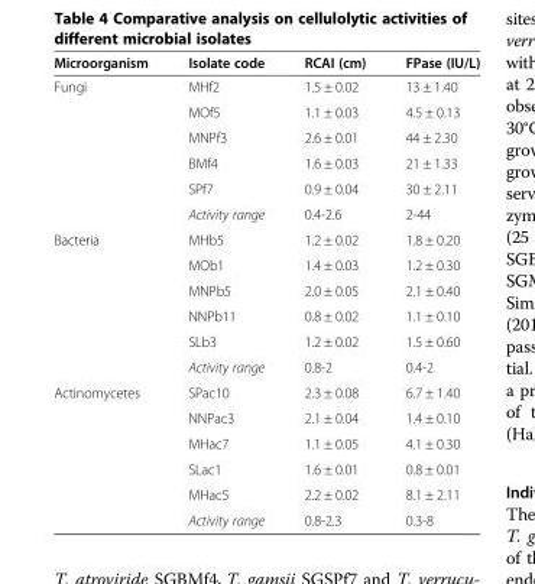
<table><thead><tr><td>Microorganism</td><td>Isolate code</td><td>RCAI (cm)</td><td>FPase (IU/L)</td></tr></thead><tbody><tr><td rowspan="6">Fungi</td><td>MHf2</td><td>1.5 ± 0.02</td><td>13 ± 1.40</td></tr><tr><td>MOf5</td><td>1.1 ± 0.03</td><td>4.5 ± 0.13</td></tr><tr><td>MNPf3</td><td>2.6 ± 0.01</td><td>44 ± 2.30</td></tr><tr><td>BMf4</td><td>1.6 ± 0.03</td><td>21 ± 1.33</td></tr><tr><td>SPf7</td><td>0.9 ± 0.04</td><td>30 ± 2.11</td></tr><tr><td>Activity range</td><td>0.4-2.6</td><td>2-44</td></tr><tr><td rowspan="6">Bacteria</td><td>MHb5</td><td>1.2 ± 0.02</td><td>1.8 ± 0.20</td></tr><tr><td>MOb1</td><td>1.4 ± 0.03</td><td>1.2 ± 0.30</td></tr><tr><td>MNPb5</td><td>2.0 ± 0.05</td><td>2.1 ± 0.40</td></tr><tr><td>NNPb11</td><td>0.8 ± 0.02</td><td>1.1 ± 0.10</td></tr><tr><td>SLb3</td><td>1.2 ± 0.02</td><td>1.5 ± 0.60</td></tr><tr><td>Activity range</td><td>0.8-2</td><td>0.4-2</td></tr><tr><td rowspan="6">Actinomycetes</td><td>SPac10</td><td>2.3 ± 0.08</td><td>6.7 ± 1.40</td></tr><tr><td>NNPac3</td><td>2.1 ± 0.04</td><td>1.4 ± 0.10</td></tr><tr><td>MHac7</td><td>1.1 ± 0.05</td><td>4.1 ± 0.30</td></tr><tr><td>SLac1</td><td>1.6 ± 0.01</td><td>0.8 ± 0.01</td></tr><tr><td>MHac5</td><td>2.2 ± 0.02</td><td>8.1 ± 2.11</td></tr><tr><td>Activity range</td><td>0.8-2.3</td><td>0.3-8</td></tr></tbody></table>